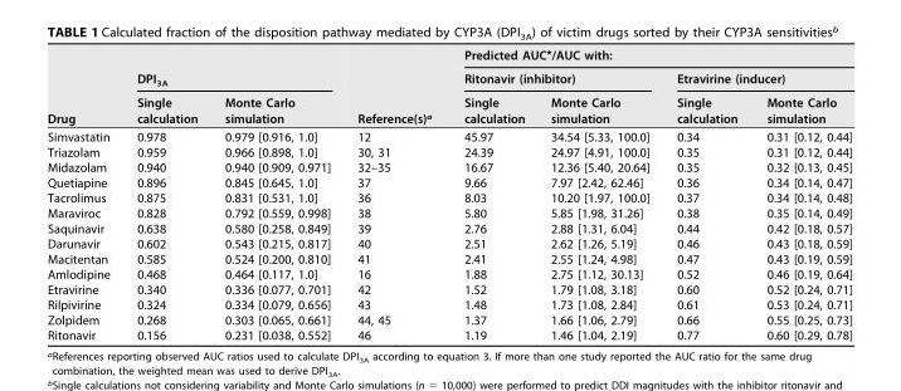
<table><thead><tr><td rowspan="3">Drug</td><td rowspan="2" colspan="2">DPI<sub>3A</sub></td><td rowspan="3">Reference(s)<sup>a</sup></td><td colspan="4">Predicted AUC*/AUC with:</td></tr><tr><td colspan="2">Ritonavir (inhibitor)</td><td colspan="2">Etravirine (inducer)</td></tr><tr><td>Single calculation</td><td>Monte Carlo simulation</td><td>Single calculation</td><td>Monte Carlo simulation</td><td>Single calculation</td><td>Monte Carlo simulation</td></tr></thead><tbody><tr><td>Simvastatin</td><td>0.978</td><td>0.979 [0.916, 1.0]</td><td>12</td><td>45.97</td><td>34.54 [5.33, 100.0]</td><td>0.34</td><td>0.31 [0.12, 0.44]</td></tr><tr><td>Triazolam</td><td>0.959</td><td>0.966 [0.898, 1.0]</td><td>30, 31</td><td>24.39</td><td>24.97 [4.91, 100.0]</td><td>0.35</td><td>0.31 [0.12, 0.44]</td></tr><tr><td>Midazolam</td><td>0.940</td><td>0.940 [0.909, 0.971]</td><td>32–35</td><td>16.67</td><td>12.36 [5.40, 20.64]</td><td>0.35</td><td>0.32 [0.13, 0.45]</td></tr><tr><td>Quetiapine</td><td>0.896</td><td>0.845 [0.645, 1.0]</td><td>37</td><td>9.66</td><td>7.97 [2.42, 62.46]</td><td>0.36</td><td>0.34 [0.14, 0.47]</td></tr><tr><td>Tacrolimus</td><td>0.875</td><td>0.831 [0.531, 1.0]</td><td>36</td><td>8.03</td><td>10.20 [1.97, 100.0]</td><td>0.37</td><td>0.34 [0.14, 0.48]</td></tr><tr><td>Maraviroc</td><td>0.828</td><td>0.792 [0.559, 0.998]</td><td>38</td><td>5.80</td><td>5.85 [1.98, 31.26]</td><td>0.38</td><td>0.35 [0.14, 0.49]</td></tr><tr><td>Saquinavir</td><td>0.638</td><td>0.580 [0.258, 0.849]</td><td>39</td><td>2.76</td><td>2.88 [1.31, 6.04]</td><td>0.44</td><td>0.42 [0.18, 0.57]</td></tr><tr><td>Darunavir</td><td>0.602</td><td>0.543 [0.215, 0.817]</td><td>40</td><td>2.51</td><td>2.62 [1.26, 5.19]</td><td>0.46</td><td>0.43 [0.18, 0.59]</td></tr><tr><td>Macitentan</td><td>0.585</td><td>0.524 [0.200, 0.810]</td><td>41</td><td>2.41</td><td>2.55 [1.24, 4.98]</td><td>0.47</td><td>0.43 [0.19, 0.59]</td></tr><tr><td>Amlodipine</td><td>0.468</td><td>0.464 [0.117, 1.0]</td><td>16</td><td>1.88</td><td>2.75 [1.12, 30.13]</td><td>0.52</td><td>0.46 [0.19, 0.64]</td></tr><tr><td>Etravirine</td><td>0.340</td><td>0.336 [0.077, 0.701]</td><td>42</td><td>1.52</td><td>1.79 [1.08, 3.18]</td><td>0.60</td><td>0.52 [0.24, 0.71]</td></tr><tr><td>Rilpivirine</td><td>0.324</td><td>0.334 [0.079, 0.656]</td><td>43</td><td>1.48</td><td>1.73 [1.08, 2.84]</td><td>0.61</td><td>0.53 [0.24, 0.71]</td></tr><tr><td>Zolpidem</td><td>0.268</td><td>0.303 [0.065, 0.661]</td><td>44, 45</td><td>1.37</td><td>1.66 [1.06, 2.79]</td><td>0.66</td><td>0.55 [0.25, 0.73]</td></tr><tr><td>Ritonavir</td><td>0.156</td><td>0.231 [0.038, 0.552]</td><td>46</td><td>1.19</td><td>1.46 [1.04, 2.19]</td><td>0.77</td><td>0.60 [0.29, 0.78]</td></tr></tbody></table>